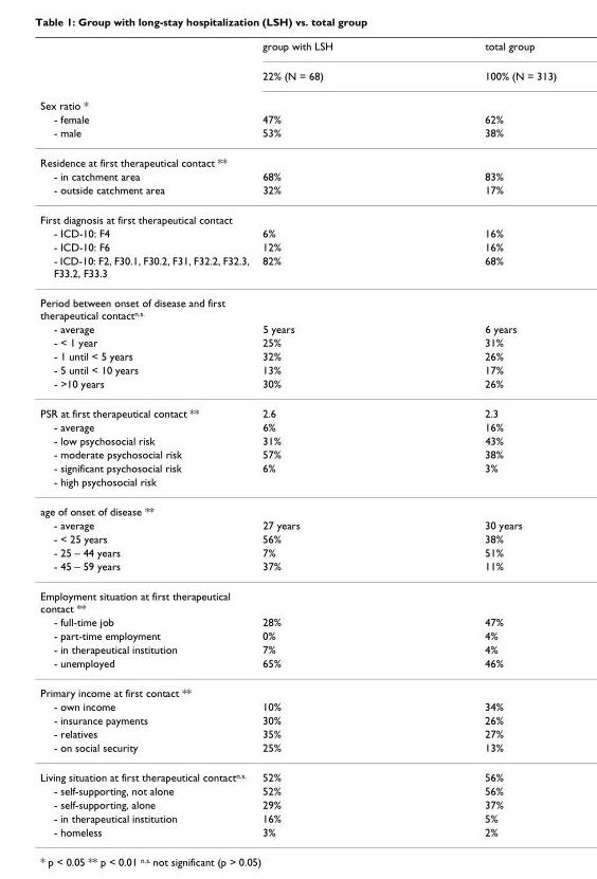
<table><thead><tr><td rowspan="5">Sex ratio * - female - male</td><td rowspan="5">group with LSH 22% (N = 68) 47% 53%</td><td rowspan="5">total group 100% (N = 313) 62% 38%</td></tr><tr></tr><tr></tr><tr></tr><tr></tr></thead><tbody><tr><td colspan="3">Residence at first therapeutical contact **</td></tr><tr><td>- in catchment area</td><td>68%</td><td>83%</td></tr><tr><td>- outside catchment area</td><td>32%</td><td>17%</td></tr><tr><td colspan="3">First diagnosis at first therapeutical contact</td></tr><tr><td>- ICD-10: F4</td><td>6%</td><td>16%</td></tr><tr><td>- ICD-10: F6</td><td>12%</td><td>16%</td></tr><tr><td>- ICD-10: F2, F30.1, F30.2, F31, F32.2, F32.3, F33.2, F33.3</td><td>82%</td><td>68%</td></tr><tr><td colspan="3">Period between onset of disease and first therapeutical contact<sup>n.s.</sup></td></tr><tr><td>- average</td><td>5 years</td><td>6 years</td></tr><tr><td>- &lt; 1 year</td><td>25%</td><td>31%</td></tr><tr><td>- 1 until &lt; 5 years</td><td>32%</td><td>26%</td></tr><tr><td>- 5 until &lt; 10 years</td><td>13%</td><td>17%</td></tr><tr><td>- &gt;10 years</td><td>30%</td><td>26%</td></tr><tr><td>PSR at first therapeutical contact **</td><td>2.6</td><td>2.3</td></tr><tr><td>- average</td><td>6%</td><td>16%</td></tr><tr><td>- low psychosocial risk</td><td>31%</td><td>43%</td></tr><tr><td>- moderate psychosocial risk</td><td>57%</td><td>38%</td></tr><tr><td>- significant psychosocial risk</td><td>6%</td><td>3%</td></tr><tr><td colspan="3">- high psychosocial risk</td></tr><tr><td colspan="3">age of onset of disease **</td></tr><tr><td>- average</td><td>27 years</td><td>30 years</td></tr><tr><td>- &lt; 25 years</td><td>56%</td><td>38%</td></tr><tr><td>- 25 – 44 years</td><td>7%</td><td>51%</td></tr><tr><td>- 45 – 59 years</td><td>37%</td><td>11%</td></tr><tr><td colspan="3">Employment situation at first therapeutical contact **</td></tr><tr><td>- full-time job</td><td>28%</td><td>47%</td></tr><tr><td>- part-time employment</td><td>0%</td><td>4%</td></tr><tr><td>- in therapeutical institution</td><td>7%</td><td>4%</td></tr><tr><td>- unemployed</td><td>65%</td><td>46%</td></tr><tr><td colspan="3">Primary income at first contact **</td></tr><tr><td>- own income</td><td>10%</td><td>34%</td></tr><tr><td>- insurance payments</td><td>30%</td><td>26%</td></tr><tr><td>- relatives</td><td>35%</td><td>27%</td></tr><tr><td>- on social security</td><td>25%</td><td>13%</td></tr><tr><td>Living situation at first therapeutical contact<sup>n.s.</sup></td><td>52%</td><td>56%</td></tr><tr><td>- self-supporting, not alone</td><td>52%</td><td>56%</td></tr><tr><td>- self-supporting, alone</td><td>29%</td><td>37%</td></tr><tr><td>- in therapeutical institution</td><td>16%</td><td>5%</td></tr><tr><td>- homeless</td><td>3%</td><td>2%</td></tr></tbody></table>